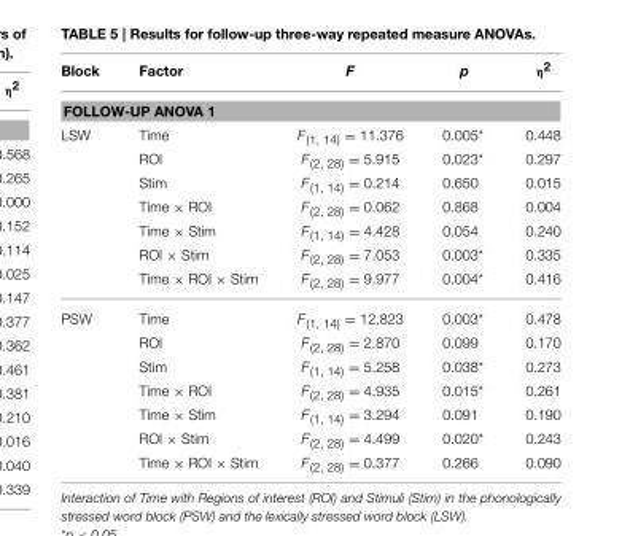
<table><thead><tr><td>Block</td><td>Factor</td><td>F</td><td>p</td><td>η<sup>2</sup></td></tr></thead><tbody><tr><td colspan="5">FOLLOW-UP ANOVA 1</td></tr><tr><td rowspan="7">LSW</td><td>Time</td><td>F<sub>(1, 14)</sub> = 11.376</td><td>0.005*</td><td>0.448</td></tr><tr><td>ROI</td><td>F<sub>(2, 28)</sub> = 5.915</td><td>0.023*</td><td>0.297</td></tr><tr><td>Stim</td><td>F<sub>(1, 14)</sub> = 0.214</td><td>0.650</td><td>0.015</td></tr><tr><td>Time × ROI</td><td>F<sub>(2, 28)</sub> = 0.062</td><td>0.868</td><td>0.004</td></tr><tr><td>Time × Stim</td><td>F<sub>(1, 14)</sub> = 4.428</td><td>0.054</td><td>0.240</td></tr><tr><td>ROI × Stim</td><td>F<sub>(2, 28)</sub> = 7.053</td><td>0.003*</td><td>0.335</td></tr><tr><td>Time × ROI × Stim</td><td>F<sub>(2, 28)</sub> = 9.977</td><td>0.004*</td><td>0.416</td></tr><tr><td rowspan="7">PSW</td><td>Time</td><td>F<sub>(1, 14)</sub> = 12.823</td><td>0.003*</td><td>0.478</td></tr><tr><td>ROI</td><td>F<sub>(2, 28)</sub> = 2.870</td><td>0.099</td><td>0.170</td></tr><tr><td>Stim</td><td>F<sub>(1, 14)</sub> = 5.258</td><td>0.038*</td><td>0.273</td></tr><tr><td>Time × ROI</td><td>F<sub>(2, 28)</sub> = 4.935</td><td>0.015*</td><td>0.261</td></tr><tr><td>Time × Stim</td><td>F<sub>(1, 14)</sub> = 3.294</td><td>0.091</td><td>0.190</td></tr><tr><td>ROI × Stim</td><td>F<sub>(2, 28)</sub> = 4.499</td><td>0.020*</td><td>0.243</td></tr><tr><td>Time × ROI × Stim</td><td>F<sub>(2, 28)</sub> = 0.377</td><td>0.266</td><td>0.090</td></tr></tbody></table>